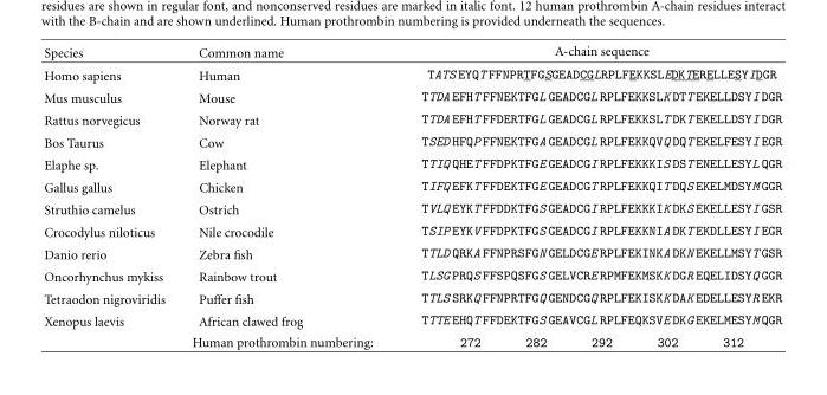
<table><thead><tr><td>Species</td><td>Common name</td><td>A-chain sequence</td></tr></thead><tbody><tr><td>Homo sapiens</td><td>Human</td><td>TATS EYQT FFNPRTFGSGEADCGLRPLFEKKSLEDKTERELLESYIDGR</td></tr><tr><td>Mus musculus</td><td>Mouse</td><td>TTDA EFHT FFNEKTFGL GEADCGL RPLFEKKSLK DTT EKELLDSYI DGR</td></tr><tr><td>Rattus norvegicus</td><td>Norway rat</td><td>TTDA EFHT FFDERTFGL GEADCGL RPLFEKKSLT DKT EKELLDSYI DGR</td></tr><tr><td>Bos Taurus</td><td>Cow</td><td>TSED HFQP FFNEKTFGA GEADCGL RPLFEKKQVQ DQT EKELFESYI EGR</td></tr><tr><td>Elaphe sp.</td><td>Elephant</td><td>TTIQ QHET FFDPKTFGE GEADCGI RPLFEKKKIS DST ENELLESYL QGR</td></tr><tr><td>Gallus gallus</td><td>Chicken</td><td>TIFQ EFKT FFDEKTFGE GEADCGT RPLFEKKQIT DQS EKELMDSYM GGR</td></tr><tr><td>Struthio camelus</td><td>Ostrich</td><td>TVLQ EYKT FFDDKTFGS GEADCGI RPLFEKKKIK DKS EKELLESYI GSR</td></tr><tr><td>Crocodylus niloticus</td><td>Nile crocodile</td><td>TSIP EYKV FFDPKTFGS GEADCGI RPLFEKKNIA DKT EKDLLESYI EGR</td></tr><tr><td>Danio rerio</td><td>Zebra fish</td><td>TTLD QRKA FFNPRSFGN GELDCGE RPLFEKINKA DKN EKELLMSYT GSR</td></tr><tr><td>Oncorhynchus mykiss</td><td>Rainbow trout</td><td>TLSG PRQS FFSPQSFGS GELVCRE RPMFEKMSKK DGR EQELIDSYQ GGR</td></tr><tr><td>Tetraodon nigroviridis</td><td>Puffer fish</td><td>TTLS SRKQ FFNPRTFGQ GENDCGQ RPLFEKISKK DAK EDELLESYR EKR</td></tr><tr><td>Xenopus laevis</td><td>African clawed frog</td><td>TTTE EHQT FFDEKTFGS GEAVCGL RPLFEQKSVE DKG EKELMESYM QGR</td></tr><tr><td colspan="2">Human prothrombin numbering:</td><td>272 282 292 302 312</td></tr></tbody></table>